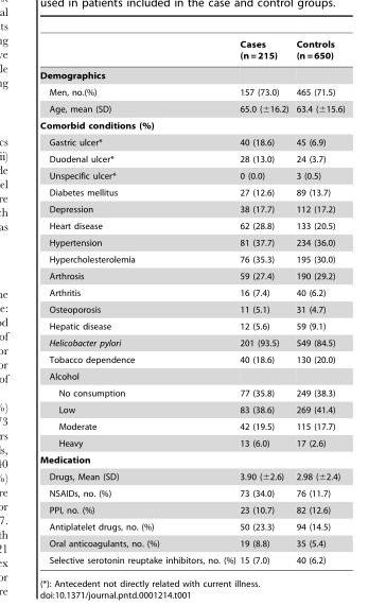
<table><thead><tr><td></td><td>Cases (n = 215)</td><td>Controls (n = 650)</td></tr></thead><tbody><tr><td colspan="3">Demographics</td></tr><tr><td>Men, no.(%)</td><td>157 (73.0)</td><td>465 (71.5)</td></tr><tr><td>Age, mean (SD)</td><td>65.0 (±16.2)</td><td>63.4 (±15.6)</td></tr><tr><td colspan="3">Comorbid conditions (%)</td></tr><tr><td>Gastric ulcer*</td><td>40 (18.6)</td><td>45 (6.9)</td></tr><tr><td>Duodenal ulcer*</td><td>28 (13.0)</td><td>24 (3.7)</td></tr><tr><td>Unspecific ulcer*</td><td>0 (0.0)</td><td>3 (0.5)</td></tr><tr><td>Diabetes mellitus</td><td>27 (12.6)</td><td>89 (13.7)</td></tr><tr><td>Depression</td><td>38 (17.7)</td><td>112 (17.2)</td></tr><tr><td>Heart disease</td><td>62 (28.8)</td><td>133 (20.5)</td></tr><tr><td>Hypertension</td><td>81 (37.7)</td><td>234 (36.0)</td></tr><tr><td>Hypercholesterolemia</td><td>76 (35.3)</td><td>195 (30.0)</td></tr><tr><td>Arthrosis</td><td>59 (27.4)</td><td>190 (29.2)</td></tr><tr><td>Arthritis</td><td>16 (7.4)</td><td>40 (6.2)</td></tr><tr><td>Osteoporosis</td><td>11 (5.1)</td><td>31 (4.7)</td></tr><tr><td>Hepatic disease</td><td>12 (5.6)</td><td>59 (9.1)</td></tr><tr><td>Helicobacter pylori</td><td>201 (93.5)</td><td>549 (84.5)</td></tr><tr><td>Tobacco dependence</td><td>40 (18.6)</td><td>130 (20.0)</td></tr><tr><td colspan="3">Alcohol</td></tr><tr><td>No consumption</td><td>77 (35.8)</td><td>249 (38.3)</td></tr><tr><td>Low</td><td>83 (38.6)</td><td>269 (41.4)</td></tr><tr><td>Moderate</td><td>42 (19.5)</td><td>115 (17.7)</td></tr><tr><td>Heavy</td><td>13 (6.0)</td><td>17 (2.6)</td></tr><tr><td colspan="3">Medication</td></tr><tr><td>Drugs, Mean (SD)</td><td>3.90 (±2.6)</td><td>2.98 (±2.4)</td></tr><tr><td>NSAIDs, no. (%)</td><td>73 (34.0)</td><td>76 (11.7)</td></tr><tr><td>PPI, no. (%)</td><td>23 (10.7)</td><td>82 (12.6)</td></tr><tr><td>Antiplatelet drugs, no. (%)</td><td>50 (23.3)</td><td>94 (14.5)</td></tr><tr><td>Oral anticoagulants, no. (%)</td><td>19 (8.8)</td><td>35 (5.4)</td></tr><tr><td>Selective serotonin reuptake inhibitors, no. (%)</td><td>15 (7.0)</td><td>40 (6.2)</td></tr></tbody></table>